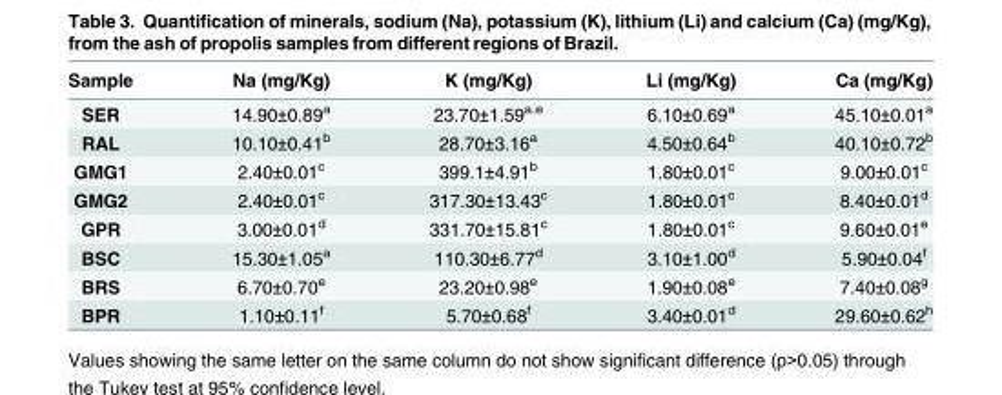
<table><thead><tr><td>Sample</td><td>Na (mg/Kg)</td><td>K (mg/Kg)</td><td>Li (mg/Kg)</td><td>Ca (mg/Kg)</td></tr></thead><tbody><tr><td>SER</td><td>14.90±0.89<sup>a</sup></td><td>23.70±1.59<sup>a.e</sup></td><td>6.10±0.69<sup>a</sup></td><td>45.10±0.01<sup>a</sup></td></tr><tr><td>RAL</td><td>10.10±0.41<sup>b</sup></td><td>28.70±3.16<sup>a</sup></td><td>4.50±0.64<sup>b</sup></td><td>40.10±0.72<sup>b</sup></td></tr><tr><td>GMG1</td><td>2.40±0.01<sup>c</sup></td><td>399.1±4.91<sup>b</sup></td><td>1.80±0.01<sup>c</sup></td><td>9.00±0.01<sup>c</sup></td></tr><tr><td>GMG2</td><td>2.40±0.01<sup>c</sup></td><td>317.30±13.43<sup>c</sup></td><td>1.80±0.01<sup>c</sup></td><td>8.40±0.01<sup>d</sup></td></tr><tr><td>GPR</td><td>3.00±0.01<sup>d</sup></td><td>331.70±15.81<sup>c</sup></td><td>1.80±0.01<sup>c</sup></td><td>9.60±0.01<sup>e</sup></td></tr><tr><td>BSC</td><td>15.30±1.05<sup>a</sup></td><td>110.30±6.77<sup>d</sup></td><td>3.10±1.00<sup>d</sup></td><td>5.90±0.04<sup>f</sup></td></tr><tr><td>BRS</td><td>6.70±0.70<sup>e</sup></td><td>23.20±0.98<sup>e</sup></td><td>1.90±0.08<sup>e</sup></td><td>7.40±0.08<sup>g</sup></td></tr><tr><td>BPR</td><td>1.10±0.11<sup>f</sup></td><td>5.70±0.68<sup>f</sup></td><td>3.40±0.01<sup>d</sup></td><td>29.60±0.62<sup>h</sup></td></tr></tbody></table>